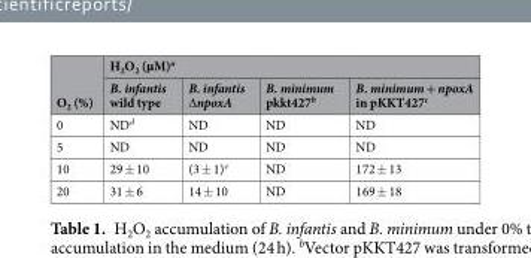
<table><thead><tr><td rowspan="2">O<sub>2</sub> (%)</td><td colspan="4">H<sub>2</sub>O<sub>2</sub> (µM)<sup>a</sup></td></tr><tr><td>B. infantis wild type</td><td>B. infantis ∆npoxA</td><td>B. minimum pkkt427<sup>b</sup></td><td>B. minimum + npoxA in pKKT427<sup>c</sup></td></tr></thead><tbody><tr><td>0</td><td>ND<sup>d</sup></td><td>ND</td><td>ND</td><td>ND</td></tr><tr><td>5</td><td>ND</td><td>ND</td><td>ND</td><td>ND</td></tr><tr><td>10</td><td>29 ± 10</td><td>(3 ± 1)<sup>e</sup></td><td>ND</td><td>172 ± 13</td></tr><tr><td>20</td><td>31 ± 6</td><td>14 ± 10</td><td>ND</td><td>169 ± 18</td></tr></tbody></table>